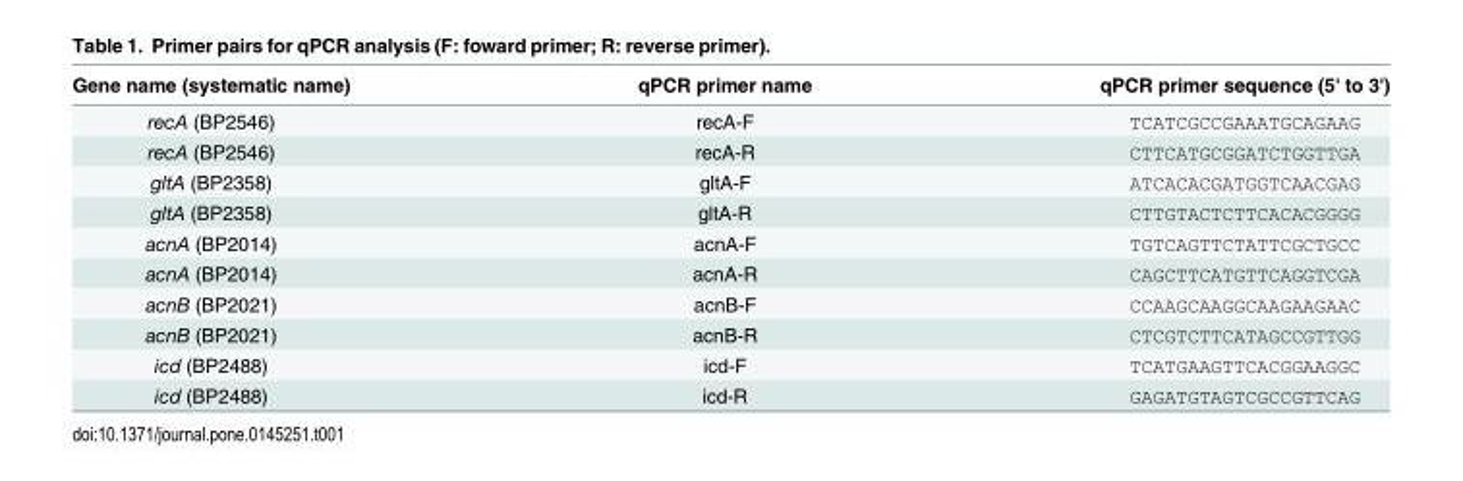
<table><thead><tr><td>Gene name (systematic name)</td><td>qPCR primer name</td><td>qPCR primer sequence (5&#x27; to 3&#x27;)</td></tr></thead><tbody><tr><td>recA (BP2546)</td><td>recA-F</td><td>TCATCGCCGAAATGCAGAAG</td></tr><tr><td>recA (BP2546)</td><td>recA-R</td><td>CTTCATGCGGATCTGGTTGA</td></tr><tr><td>gltA (BP2358)</td><td>gltA-F</td><td>ATCACACGATGGTCAACGAG</td></tr><tr><td>gltA (BP2358)</td><td>gltA-R</td><td>CTTGTACTCTTCACACGGGG</td></tr><tr><td>acnA (BP2014)</td><td>acnA-F</td><td>TGTCAGTTCTATTCGCTGCC</td></tr><tr><td>acnA (BP2014)</td><td>acnA-R</td><td>CAGCTTCATGTTCAGGTCGA</td></tr><tr><td>acnB (BP2021)</td><td>acnB-F</td><td>CCAAGCAAGGCAAGAAGAAC</td></tr><tr><td>acnB (BP2021)</td><td>acnB-R</td><td>CTCGTCTTCATAGCCGTTGG</td></tr><tr><td>icd (BP2488)</td><td>icd-F</td><td>TCATGAAGTTCACGGAAGGC</td></tr><tr><td>icd (BP2488)</td><td>icd-R</td><td>GAGATGTAGTCGCCGTTCAG</td></tr></tbody></table>